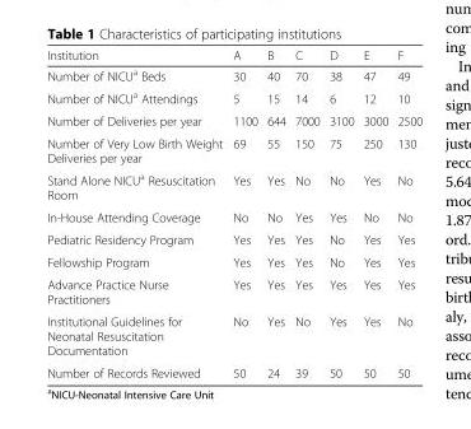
<table><thead><tr><td>Institution</td><td>A</td><td>B</td><td>C</td><td>D</td><td>E</td><td>F</td></tr></thead><tbody><tr><td>Number of NICU<sup>a</sup> Beds</td><td>30</td><td>40</td><td>70</td><td>38</td><td>47</td><td>49</td></tr><tr><td>Number of NICU<sup>a</sup> Attendings</td><td>5</td><td>15</td><td>14</td><td>6</td><td>12</td><td>10</td></tr><tr><td>Number of Deliveries per year</td><td>1100</td><td>644</td><td>7000</td><td>3100</td><td>3000</td><td>2500</td></tr><tr><td>Number of Very Low Birth Weight Deliveries per year</td><td>69</td><td>55</td><td>150</td><td>75</td><td>250</td><td>130</td></tr><tr><td>Stand Alone NICU<sup>a</sup> Resuscitation Room</td><td>Yes</td><td>Yes</td><td>No</td><td>No</td><td>Yes</td><td>No</td></tr><tr><td>In-House Attending Coverage</td><td>No</td><td>No</td><td>Yes</td><td>Yes</td><td>No</td><td>No</td></tr><tr><td>Pediatric Residency Program</td><td>Yes</td><td>Yes</td><td>Yes</td><td>No</td><td>Yes</td><td>Yes</td></tr><tr><td>Fellowship Program</td><td>Yes</td><td>Yes</td><td>Yes</td><td>No</td><td>Yes</td><td>Yes</td></tr><tr><td>Advance Practice Nurse Practitioners</td><td>Yes</td><td>Yes</td><td>Yes</td><td>Yes</td><td>Yes</td><td>Yes</td></tr><tr><td>Institutional Guidelines for Neonatal Resuscitation Documentation</td><td>No</td><td>Yes</td><td>No</td><td>Yes</td><td>Yes</td><td>No</td></tr><tr><td>Number of Records Reviewed</td><td>50</td><td>24</td><td>39</td><td>50</td><td>50</td><td>50</td></tr></tbody></table>